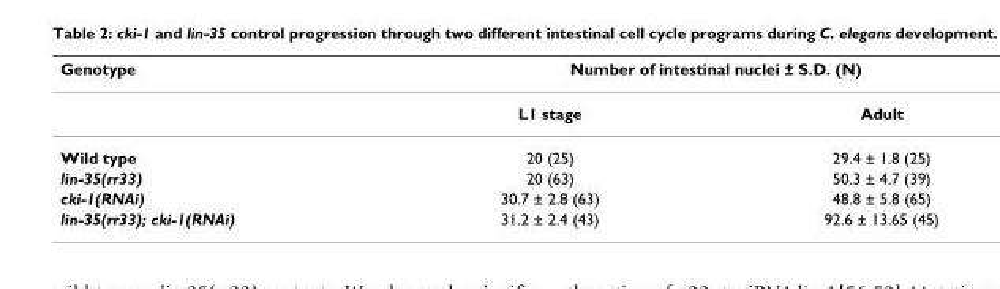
<table><thead><tr><td rowspan="2">Genotype</td><td colspan="2">Number of intestinal nuclei ± S.D. (N)</td></tr><tr><td>L1 stage</td><td>Adult</td></tr></thead><tbody><tr><td>Wild type</td><td>20 (25)</td><td>29.4 ± 1.8 (25)</td></tr><tr><td>lin-35(rr33)</td><td>20 (63)</td><td>50.3 ± 4.7 (39)</td></tr><tr><td>cki-1(RNAi)</td><td>30.7 ± 2.8 (63)</td><td>48.8 ± 5.8 (65)</td></tr><tr><td>lin-35(rr33); cki-1(RNAi)</td><td>31.2 ± 2.4 (43)</td><td>92.6 ± 13.65 (45)</td></tr></tbody></table>